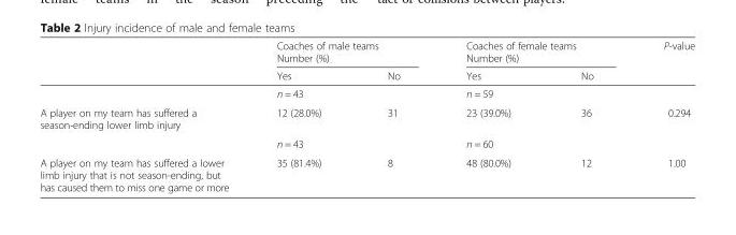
<table><thead><tr><td rowspan="2"></td><td colspan="2">Coaches of male teams Number (%)</td><td colspan="2">Coaches of female teams Number (%)</td><td rowspan="2">P-value</td></tr><tr><td>Yes</td><td>No</td><td>Yes</td><td>No</td></tr></thead><tbody><tr><td></td><td colspan="2">n = 43</td><td colspan="2">n = 59</td><td></td></tr><tr><td rowspan="2">A player on my team has suffered a season-ending lower limb injury</td><td>12 (28.0%)</td><td>31</td><td>23 (39.0%)</td><td>36</td><td>0.294</td></tr><tr><td colspan="2">n = 43</td><td colspan="2">n = 60</td><td></td></tr><tr><td>A player on my team has suffered a lower limb injury that is not season-ending, but has caused them to miss one game or more</td><td>35 (81.4%)</td><td>8</td><td>48 (80.0%)</td><td>12</td><td>1.00</td></tr></tbody></table>